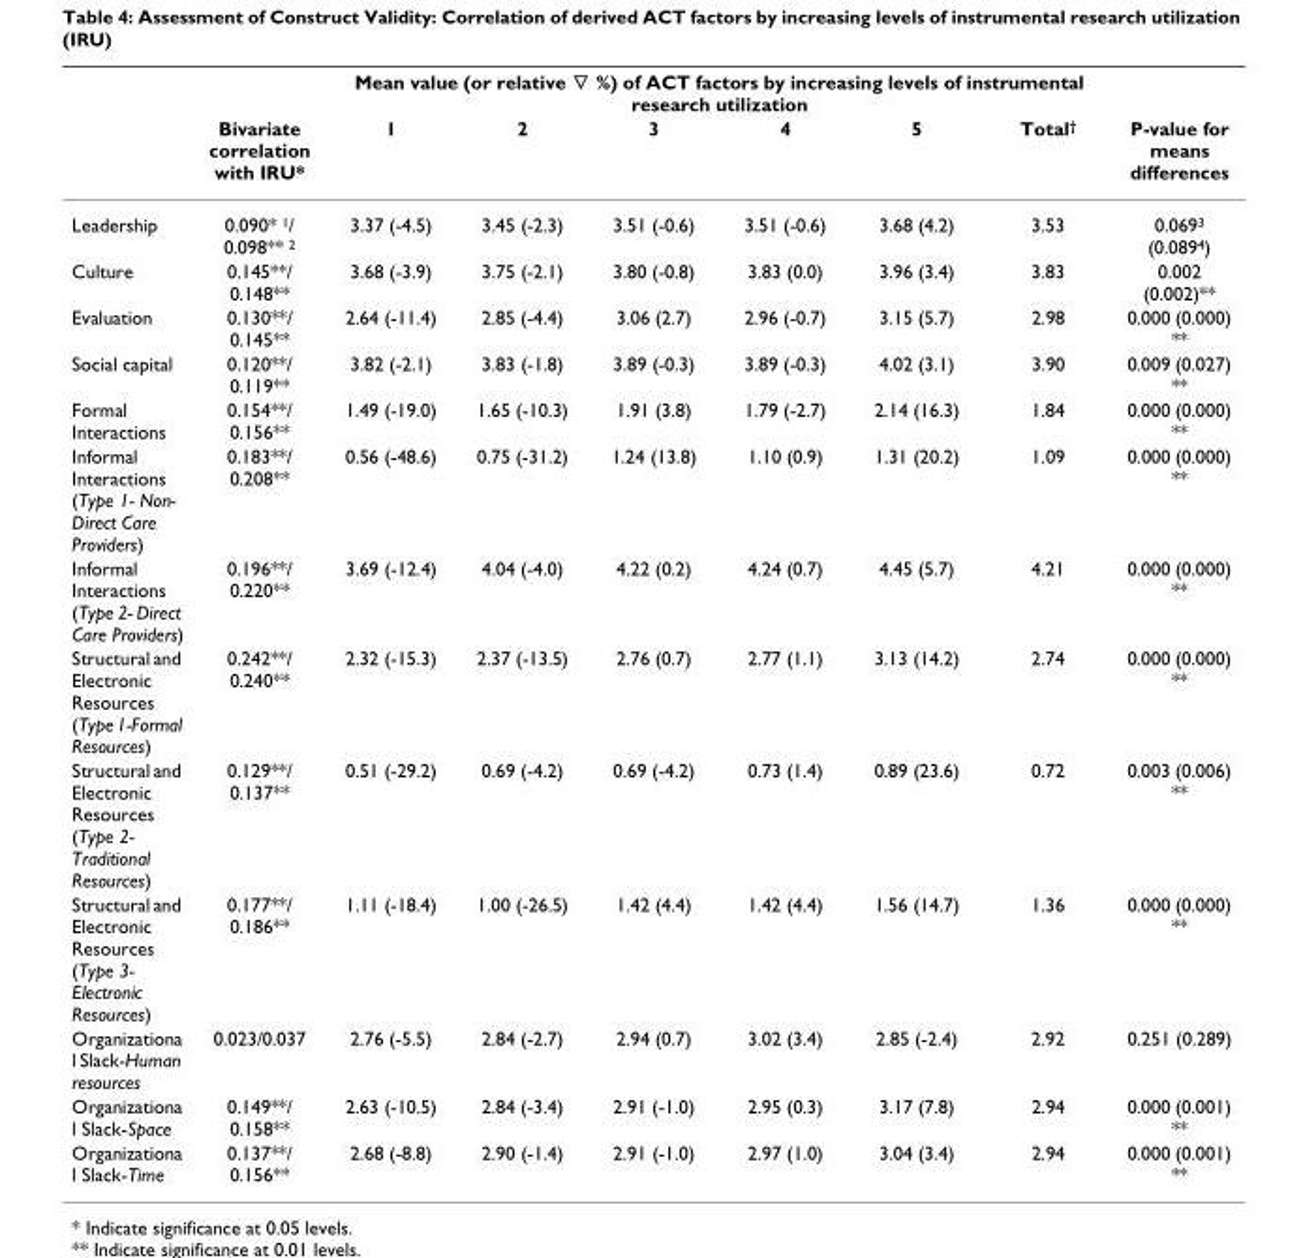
<table><thead><tr><td rowspan="2"></td><td rowspan="2">Bivariate correlation with IRU*</td><td colspan="6">Mean value (or relative Ќ %) of ACT factors by increasing levels of instrumental research utilization</td><td rowspan="2">P-value for means differences</td></tr><tr><td>1</td><td>2</td><td>3</td><td>4</td><td>5</td><td>Total<sup>†</sup></td></tr></thead><tbody><tr><td>Leadership</td><td>0.090* <sup>1</sup>/ 0.098** <sup>2</sup></td><td>3.37 (-4.5)</td><td>3.45 (-2.3)</td><td>3.51 (-0.6)</td><td>3.51 (-0.6)</td><td>3.68 (4.2)</td><td>3.53</td><td>0.069<sup>3</sup> (0.089<sup>4</sup>)</td></tr><tr><td>Culture</td><td>0.145**/ 0.148**</td><td>3.68 (-3.9)</td><td>3.75 (-2.1)</td><td>3.80 (-0.8)</td><td>3.83 (0.0)</td><td>3.96 (3.4)</td><td>3.83</td><td>0.002 (0.002)**</td></tr><tr><td>Evaluation</td><td>0.130**/ 0.145**</td><td>2.64 (-11.4)</td><td>2.85 (-4.4)</td><td>3.06 (2.7)</td><td>2.96 (-0.7)</td><td>3.15 (5.7)</td><td>2.98</td><td>0.000 (0.000) **</td></tr><tr><td>Social capital</td><td>0.120**/ 0.119**</td><td>3.82 (-2.1)</td><td>3.83 (-1.8)</td><td>3.89 (-0.3)</td><td>3.89 (-0.3)</td><td>4.02 (3.1)</td><td>3.90</td><td>0.009 (0.027) **</td></tr><tr><td>Formal Interactions</td><td>0.154**/ 0.156**</td><td>1.49 (-19.0)</td><td>1.65 (-10.3)</td><td>1.91 (3.8)</td><td>1.79 (-2.7)</td><td>2.14 (16.3)</td><td>1.84</td><td>0.000 (0.000) **</td></tr><tr><td>Informal Interactions (Type 1- Non- Direct Care Providers)</td><td>0.183**/ 0.208**</td><td>0.56 (-48.6)</td><td>0.75 (-31.2)</td><td>1.24 (13.8)</td><td>1.10 (0.9)</td><td>1.31 (20.2)</td><td>1.09</td><td>0.000 (0.000) **</td></tr><tr><td>Informal Interactions (Type 2- Direct Care Providers)</td><td>0.196**/ 0.220**</td><td>3.69 (-12.4)</td><td>4.04 (-4.0)</td><td>4.22 (0.2)</td><td>4.24 (0.7)</td><td>4.45 (5.7)</td><td>4.21</td><td>0.000 (0.000) **</td></tr><tr><td>Structural and Electronic Resources (Type 1-Formal Resources)</td><td>0.242**/ 0.240**</td><td>2.32 (-15.3)</td><td>2.37 (-13.5)</td><td>2.76 (0.7)</td><td>2.77 (1.1)</td><td>3.13 (14.2)</td><td>2.74</td><td>0.000 (0.000) **</td></tr><tr><td>Structural and Electronic Resources (Type 2- Traditional Resources)</td><td>0.129**/ 0.137**</td><td>0.51 (-29.2)</td><td>0.69 (-4.2)</td><td>0.69 (-4.2)</td><td>0.73 (1.4)</td><td>0.89 (23.6)</td><td>0.72</td><td>0.003 (0.006) **</td></tr><tr><td>Structural and Electronic Resources (Type 3- Electronic Resources)</td><td>0.177**/ 0.186**</td><td>1.11 (-18.4)</td><td>1.00 (-26.5)</td><td>1.42 (4.4)</td><td>1.42 (4.4)</td><td>1.56 (14.7)</td><td>1.36</td><td>0.000 (0.000) **</td></tr><tr><td>Organizationa l Slack-Human resources</td><td>0.023/0.037</td><td>2.76 (-5.5)</td><td>2.84 (-2.7)</td><td>2.94 (0.7)</td><td>3.02 (3.4)</td><td>2.85 (-2.4)</td><td>2.92</td><td>0.251 (0.289)</td></tr><tr><td>Organizationa l Slack-Space</td><td>0.149**/ 0.158**</td><td>2.63 (-10.5)</td><td>2.84 (-3.4)</td><td>2.91 (-1.0)</td><td>2.95 (0.3)</td><td>3.17 (7.8)</td><td>2.94</td><td>0.000 (0.001) **</td></tr><tr><td>Organizationa l Slack-Time</td><td>0.137**/ 0.156**</td><td>2.68 (-8.8)</td><td>2.90 (-1.4)</td><td>2.91 (-1.0)</td><td>2.97 (1.0)</td><td>3.04 (3.4)</td><td>2.94</td><td>0.000 (0.001) **</td></tr></tbody></table>